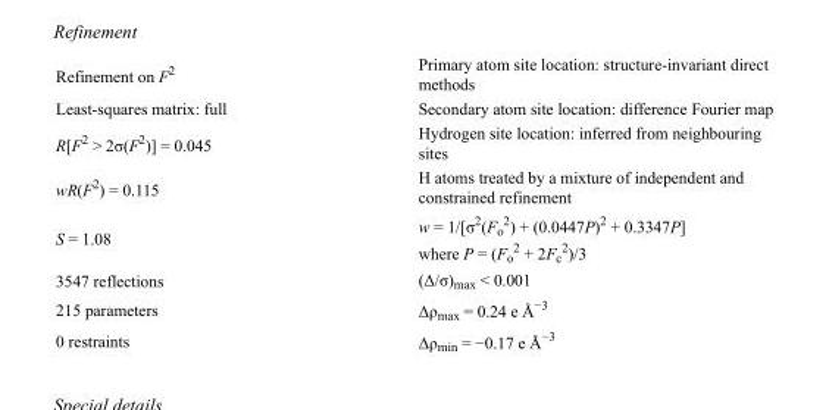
<table><tbody><tr><td>Refinement on F<sup>2</sup></td><td>Primary atom site location: structure-invariant direct methods</td></tr><tr><td>Least-squares matrix: full</td><td>Secondary atom site location: difference Fourier map</td></tr><tr><td>R[F<sup>2</sup> &gt; 2σ(F<sup>2</sup>)] = 0.045</td><td>Hydrogen site location: inferred from neighbouring sites</td></tr><tr><td>wR(F<sup>2</sup>) = 0.115</td><td>H atoms treated by a mixture of independent and constrained refinement</td></tr><tr><td>S = 1.08</td><td>w = 1/[σ<sup>2</sup>(F<sub>o</sub> <sup>2</sup>) + (0.0447P)<sup>2</sup> + 0.3347P] where P = (F<sub>o</sub> <sup>2</sup> + 2F<sub>c</sub> <sup>2</sup>)/3</td></tr><tr><td>3547 reflections</td><td>(Δ/σ)<sub>max</sub> &lt; 0.001</td></tr><tr><td>215 parameters</td><td>Δρ<sub>max</sub> = 0.24 e Å<sup>−3</sup></td></tr><tr><td>0 restraints</td><td>Δρ<sub>min</sub> = −0.17 e Å<sup>−3</sup></td></tr></tbody></table>